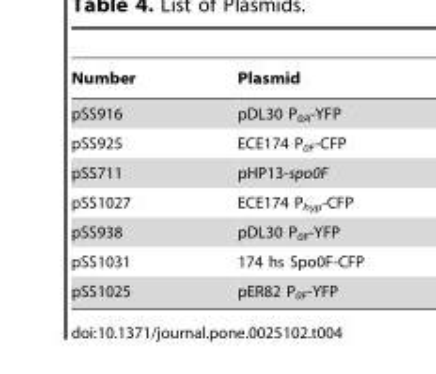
<table><thead><tr><td>Number</td><td>Plasmid</td></tr></thead><tbody><tr><td>pSS916</td><td>pDL30 P<sub>0A</sub>-YFP</td></tr><tr><td>pSS925</td><td>ECE174 P<sub>0F</sub>-CFP</td></tr><tr><td>pSS711</td><td>pHP13-spo0F</td></tr><tr><td>pSS1027</td><td>ECE174 P<sub>hyp</sub>-CFP</td></tr><tr><td>pSS938</td><td>pDL30 P<sub>0F</sub>-YFP</td></tr><tr><td>pSS1031</td><td>174 hs Spo0F-CFP</td></tr><tr><td>pSS1025</td><td>pER82 P<sub>0F</sub>-YFP</td></tr></tbody></table>